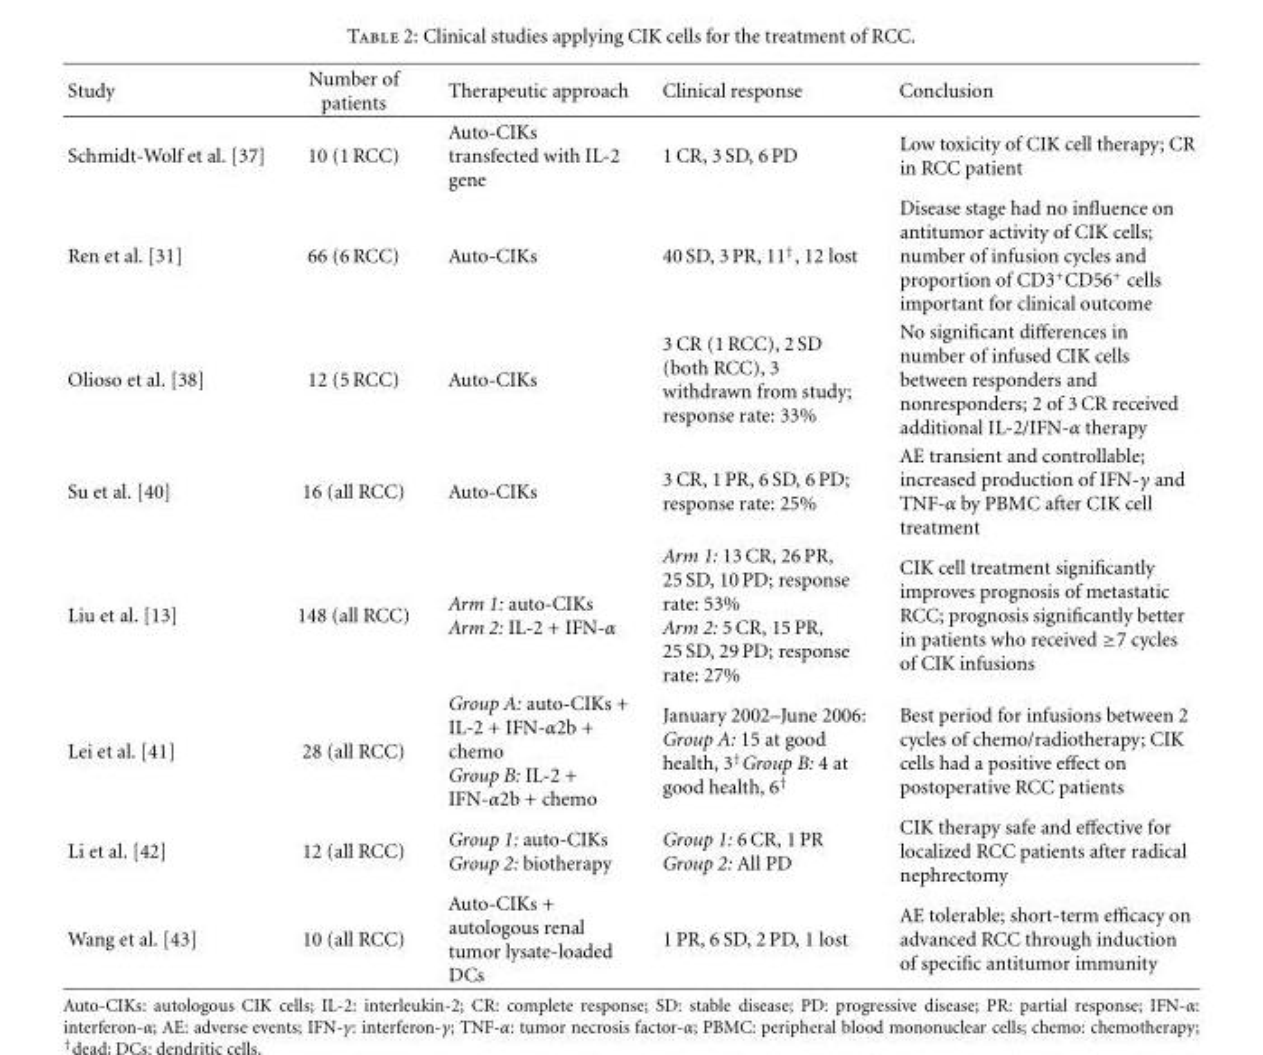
<table><thead><tr><td>Study</td><td>Number of patients</td><td>Therapeutic approach</td><td>Clinical response</td><td>Conclusion</td></tr></thead><tbody><tr><td>Schmidt-Wolf et al. [37]</td><td>10 (1 RCC)</td><td>Auto-CIKs transfected with IL-2 gene</td><td>1 CR, 3 SD, 6 PD</td><td>Low toxicity of CIK cell therapy; CR in RCC patient</td></tr><tr><td>Ren et al. [31]</td><td>66 (6 RCC)</td><td>Auto-CIKs</td><td>40 SD, 3 PR, 11<sup>†</sup>, 12 lost</td><td>Disease stage had no influence on antitumor activity of CIK cells; number of infusion cycles and proportion of CD3<sup>+</sup>CD56<sup>+</sup> cells important for clinical outcome</td></tr><tr><td>Olioso et al. [38]</td><td>12 (5 RCC)</td><td>Auto-CIKs</td><td>3 CR (1 RCC), 2 SD (both RCC), 3 withdrawn from study; response rate: 33%</td><td>No significant differences in number of infused CIK cells between responders and nonresponders; 2 of 3 CR received additional IL-2/IFN-α therapy</td></tr><tr><td>Su et al. [40]</td><td>16 (all RCC)</td><td>Auto-CIKs</td><td>3 CR, 1 PR, 6 SD, 6 PD; response rate: 25%</td><td>AE transient and controllable; increased production of IFN-γ and TNF-α by PBMC after CIK cell treatment</td></tr><tr><td>Liu et al. [13]</td><td>148 (all RCC)</td><td>Arm 1: auto-CIKs Arm 2: IL-2 + IFN-α</td><td>Arm 1: 13 CR, 26 PR, 25 SD, 10 PD; response rate: 53% Arm 2: 5 CR, 15 PR, 25 SD, 29 PD; response rate: 27%</td><td>CIK cell treatment significantly improves prognosis of metastatic RCC; prognosis significantly better in patients who received ≥7 cycles of CIK infusions</td></tr><tr><td>Lei et al. [41]</td><td>28 (all RCC)</td><td>Group A: auto-CIKs + IL-2 + IFN-α2b + chemo Group B: IL-2 + IFN-α2b + chemo</td><td>January 2002–June 2006: Group A: 15 at good health, 3<sup>†</sup>Group B: 4 at good health, 6<sup>†</sup></td><td>Best period for infusions between 2 cycles of chemo/radiotherapy; CIK cells had a positive effect on postoperative RCC patients</td></tr><tr><td>Li et al. [42]</td><td>12 (all RCC)</td><td>Group 1: auto-CIKs Group 2: biotherapy</td><td>Group 1: 6 CR, 1 PR Group 2: All PD</td><td>CIK therapy safe and effective for localized RCC patients after radical nephrectomy</td></tr><tr><td>Wang et al. [43]</td><td>10 (all RCC)</td><td>Auto-CIKs + autologous renal tumor lysate-loaded DCs</td><td>1 PR, 6 SD, 2 PD, 1 lost</td><td>AE tolerable; short-term efficacy on advanced RCC through induction of specific antitumor immunity</td></tr></tbody></table>